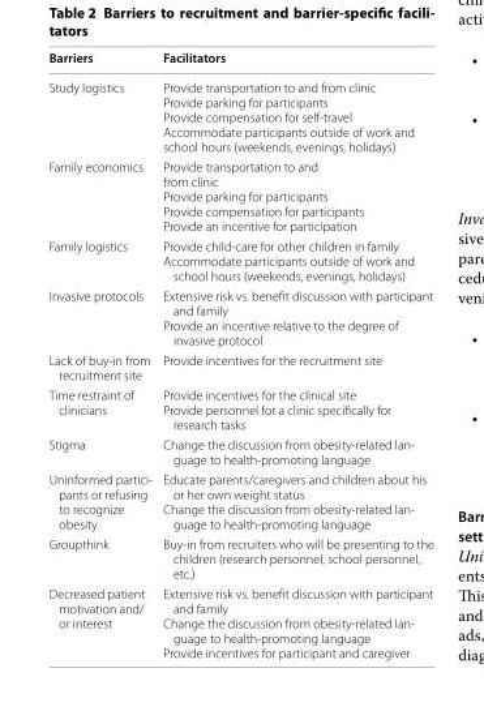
<table><thead><tr><td>Barriers</td><td>Facilitators</td></tr></thead><tbody><tr><td>Study logistics</td><td>Provide transportation to and from clinic Provide parking for participants Provide compensation for self-travel Accommodate participants outside of work and school hours (weekends, evenings, holidays)</td></tr><tr><td>Family economics</td><td>Provide transportation to and from clinic Provide parking for participants Provide compensation for participants Provide an incentive for participation</td></tr><tr><td>Family logistics</td><td>Provide child-care for other children in family Accommodate participants outside of work and school hours (weekends, evenings, holidays)</td></tr><tr><td>Invasive protocols</td><td>Extensive risk vs. benefit discussion with participant and family Provide an incentive relative to the degree of invasive protocol</td></tr><tr><td>Lack of buy-in from recruitment site</td><td>Provide incentives for the recruitment site</td></tr><tr><td>Time restraint of clinicians</td><td>Provide incentives for the clinical site Provide personnel for a clinic specifically for research tasks</td></tr><tr><td>Stigma</td><td>Change the discussion from obesity-related lan- guage to health-promoting language</td></tr><tr><td>Uninformed partici- pants or refusing to recognize obesity</td><td>Educate parents/caregivers and children about his or her own weight status Change the discussion from obesity-related lan- guage to health-promoting language</td></tr><tr><td>Groupthink</td><td>Buy-in from recruiters who will be presenting to the children (research personnel, school personnel, etc.)</td></tr><tr><td>Decreased patient motivation and/ or interest</td><td>Extensive risk vs. benefit discussion with participant and family Change the discussion from obesity-related lan- guage to health-promoting language Provide incentives for participant and caregiver</td></tr></tbody></table>